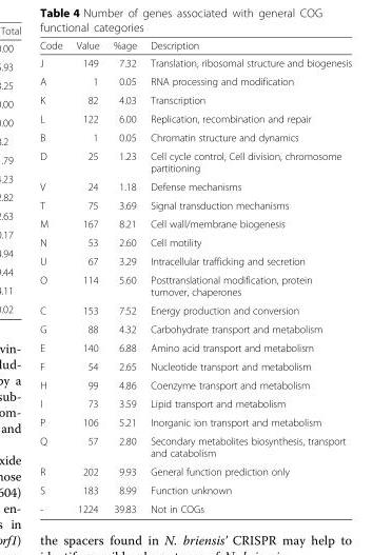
<table><thead><tr><td>Code</td><td>Value</td><td>%age</td><td>Description</td></tr></thead><tbody><tr><td>J</td><td>149</td><td>7.32</td><td>Translation, ribosomal structure and biogenesis</td></tr><tr><td>A</td><td>1</td><td>0.05</td><td>RNA processing and modification</td></tr><tr><td>K</td><td>82</td><td>4.03</td><td>Transcription</td></tr><tr><td>L</td><td>122</td><td>6.00</td><td>Replication, recombination and repair</td></tr><tr><td>B</td><td>1</td><td>0.05</td><td>Chromatin structure and dynamics</td></tr><tr><td>D</td><td>25</td><td>1.23</td><td>Cell cycle control, Cell division, chromosome partitioning</td></tr><tr><td>V</td><td>24</td><td>1.18</td><td>Defense mechanisms</td></tr><tr><td>T</td><td>75</td><td>3.69</td><td>Signal transduction mechanisms</td></tr><tr><td>M</td><td>167</td><td>8.21</td><td>Cell wall/membrane biogenesis</td></tr><tr><td>N</td><td>53</td><td>2.60</td><td>Cell motility</td></tr><tr><td>U</td><td>67</td><td>3.29</td><td>Intracellular trafficking and secretion</td></tr><tr><td>O</td><td>114</td><td>5.60</td><td>Posttranslational modification, protein turnover, chaperones</td></tr><tr><td>C</td><td>153</td><td>7.52</td><td>Energy production and conversion</td></tr><tr><td>G</td><td>88</td><td>4.32</td><td>Carbohydrate transport and metabolism</td></tr><tr><td>E</td><td>140</td><td>6.88</td><td>Amino acid transport and metabolism</td></tr><tr><td>F</td><td>54</td><td>2.65</td><td>Nucleotide transport and metabolism</td></tr><tr><td>H</td><td>99</td><td>4.86</td><td>Coenzyme transport and metabolism</td></tr><tr><td>I</td><td>73</td><td>3.59</td><td>Lipid transport and metabolism</td></tr><tr><td>P</td><td>106</td><td>5.21</td><td>Inorganic ion transport and metabolism</td></tr><tr><td>Q</td><td>57</td><td>2.80</td><td>Secondary metabolites biosynthesis, transport and catabolism</td></tr><tr><td>R</td><td>202</td><td>9.93</td><td>General function prediction only</td></tr><tr><td>S</td><td>183</td><td>8.99</td><td>Function unknown</td></tr><tr><td>-</td><td>1224</td><td>39.83</td><td>Not in COGs</td></tr></tbody></table>